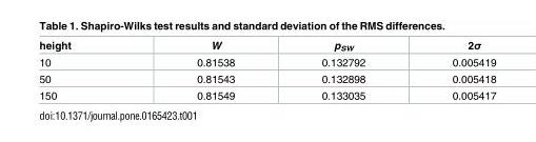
<table><thead><tr><td>height</td><td>W</td><td>p<sub>SW</sub></td><td>2σ</td></tr></thead><tbody><tr><td>10</td><td>0.81538</td><td>0.132792</td><td>0.005419</td></tr><tr><td>50</td><td>0.81543</td><td>0.132898</td><td>0.005418</td></tr><tr><td>150</td><td>0.81549</td><td>0.133035</td><td>0.005417</td></tr></tbody></table>